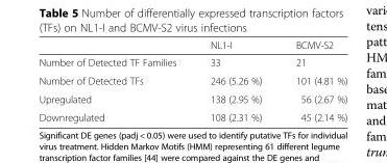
<table><thead><tr><td></td><td>NL1-I</td><td>BCMV-S2</td></tr></thead><tbody><tr><td>Number of Detected TF Families</td><td>33</td><td>21</td></tr><tr><td>Number of Detected TFs</td><td>246 (5.26 %)</td><td>101 (4.81 %)</td></tr><tr><td>Upregulated</td><td>138 (2.95 %)</td><td>56 (2.67 %)</td></tr><tr><td>Downregulated</td><td>108 (2.31 %)</td><td>45 (2.14 %)</td></tr></tbody></table>